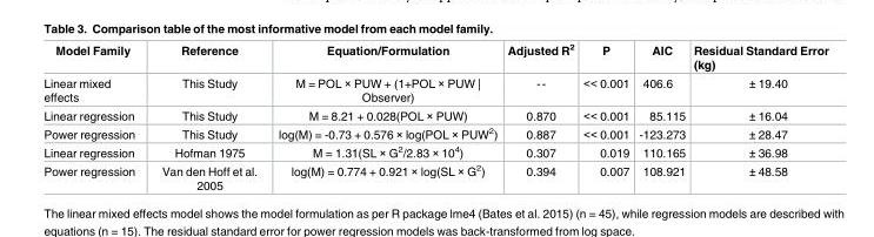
<table><thead><tr><td>Model Family</td><td>Reference</td><td>Equation/Formulation</td><td>Adjusted R<sup>2</sup></td><td>P</td><td>AIC</td><td>Residual Standard Error (kg)</td></tr></thead><tbody><tr><td>Linear mixed effects</td><td>This Study</td><td>M = POL × PUW + (1+POL × PUW | Observer)</td><td>--</td><td>&lt;&lt; 0.001</td><td>406.6</td><td>± 19.40</td></tr><tr><td>Linear regression</td><td>This Study</td><td>M = 8.21 + 0.028(POL × PUW)</td><td>0.870</td><td>&lt;&lt; 0.001</td><td>85.115</td><td>± 16.04</td></tr><tr><td>Power regression</td><td>This Study</td><td>log(M) = -0.73 + 0.576 × log(POL × PUW<sup>2</sup>)</td><td>0.887</td><td>&lt;&lt; 0.001</td><td>-123.273</td><td>± 28.47</td></tr><tr><td>Linear regression</td><td>Hofman 1975</td><td>M = 1.31(SL × G<sup>2</sup>/2.83 × 10<sup>4</sup>)</td><td>0.307</td><td>0.019</td><td>110.165</td><td>± 36.98</td></tr><tr><td>Power regression</td><td>Van den Hoff et al. 2005</td><td>log(M) = 0.774 + 0.921 × log(SL × G<sup>2</sup>)</td><td>0.394</td><td>0.007</td><td>108.921</td><td>± 48.58</td></tr></tbody></table>